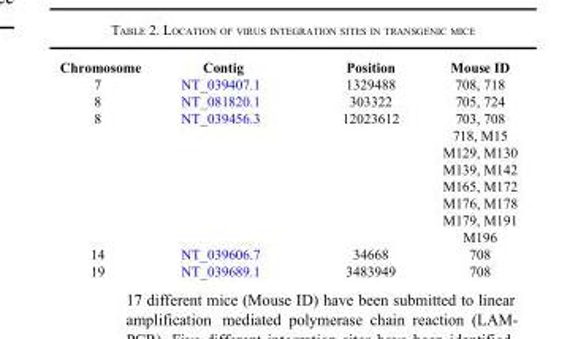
<table><tbody><tr><td>Chromosome</td><td>Contig</td><td>Position</td><td>Mouse ID</td></tr><tr><td>7</td><td>NT_039407.1</td><td>1329488</td><td>708, 718</td></tr><tr><td>8</td><td>NT_081820.1</td><td>303322</td><td>705, 724</td></tr><tr><td rowspan="8">8</td><td>NT_039456.3</td><td>12023612</td><td>703, 708</td></tr><tr><td></td><td></td><td>718, M15</td></tr><tr><td></td><td></td><td>M129, M130</td></tr><tr><td></td><td></td><td>M139, M142</td></tr><tr><td></td><td></td><td>M165, M172</td></tr><tr><td></td><td></td><td>M176, M178</td></tr><tr><td></td><td></td><td>M179, M191</td></tr><tr><td></td><td></td><td>M196</td></tr><tr><td>14</td><td>NT_039606.7</td><td>34668</td><td>708</td></tr><tr><td>19</td><td>NT_039689.1</td><td>3483949</td><td>708</td></tr></tbody></table>